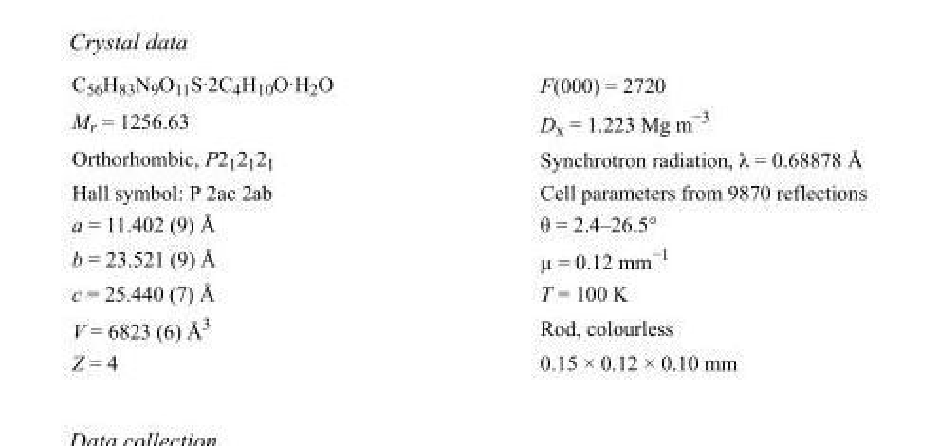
<table><tbody><tr><td>C<sub>56</sub>H<sub>83</sub>N<sub>9</sub>O<sub>11</sub>S·2C<sub>4</sub>H<sub>10</sub>O·H<sub>2</sub>O</td><td>F(000) = 2720</td></tr><tr><td>M<sub>r</sub> = 1256.63</td><td>D<sub>x</sub> = 1.223 Mg m<sup>−3</sup></td></tr><tr><td>Orthorhombic, P2<sub>1</sub>2<sub>1</sub>2<sub>1</sub></td><td>Synchrotron radiation, λ = 0.68878 Å</td></tr><tr><td>Hall symbol: P 2ac 2ab</td><td>Cell parameters from 9870 reflections</td></tr><tr><td>a = 11.402 (9) Å</td><td>θ = 2.4–26.5°</td></tr><tr><td>b = 23.521 (9) Å</td><td>µ = 0.12 mm<sup>−1</sup></td></tr><tr><td>c = 25.440 (7) Å</td><td>T = 100 K</td></tr><tr><td>V = 6823 (6) Å<sup>3</sup></td><td>Rod, colourless</td></tr><tr><td>Z = 4</td><td>0.15 × 0.12 × 0.10 mm</td></tr></tbody></table>